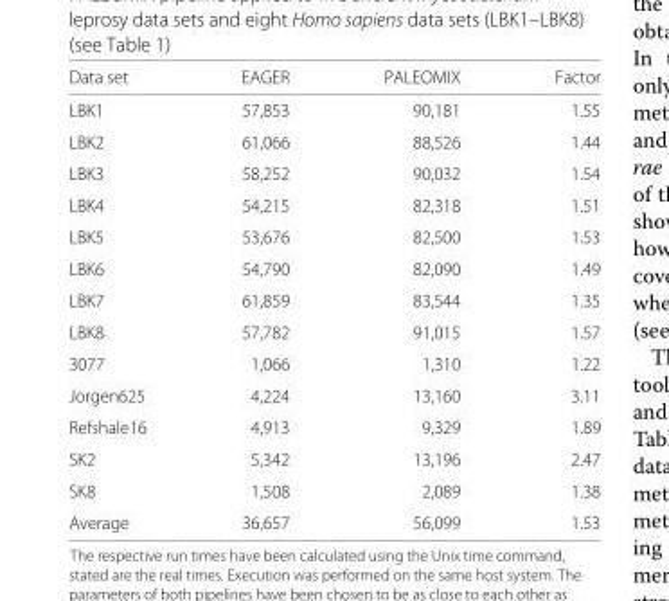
<table><thead><tr><td>Data set</td><td>EAGER</td><td>PALEOMIX</td><td>Factor</td></tr></thead><tbody><tr><td>LBK1</td><td>57,853</td><td>90,181</td><td>1.55</td></tr><tr><td>LBK2</td><td>61,066</td><td>88,526</td><td>1.44</td></tr><tr><td>LBK3</td><td>58,252</td><td>90,032</td><td>1.54</td></tr><tr><td>LBK4</td><td>54,215</td><td>82,318</td><td>1.51</td></tr><tr><td>LBK5</td><td>53,676</td><td>82,500</td><td>1.53</td></tr><tr><td>LBK6</td><td>54,790</td><td>82,090</td><td>1.49</td></tr><tr><td>LBK7</td><td>61,859</td><td>83,544</td><td>1.35</td></tr><tr><td>LBK8</td><td>57,782</td><td>91,015</td><td>1.57</td></tr><tr><td>3077</td><td>1,066</td><td>1,310</td><td>1.22</td></tr><tr><td>Jorgen625</td><td>4,224</td><td>13,160</td><td>3.11</td></tr><tr><td>Refshale16</td><td>4,913</td><td>9,329</td><td>1.89</td></tr><tr><td>SK2</td><td>5,342</td><td>13,196</td><td>2.47</td></tr><tr><td>SK8</td><td>1,508</td><td>2,089</td><td>1.38</td></tr><tr><td>Average</td><td>36,657</td><td>56,099</td><td>1.53</td></tr></tbody></table>